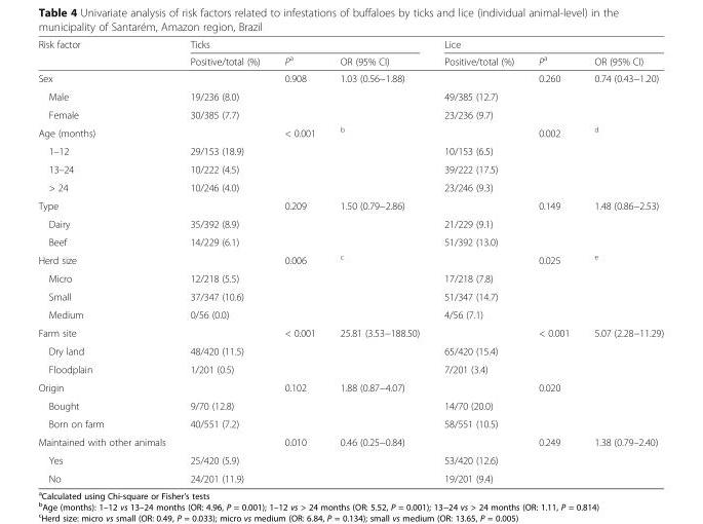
<table><thead><tr><td rowspan="2">Risk factor</td><td colspan="3">Ticks</td><td colspan="3">Lice</td></tr><tr><td>Positive/total (%)</td><td>P<sup>a</sup></td><td>OR (95% CI)</td><td>Positive/total (%)</td><td>P<sup>a</sup></td><td>OR (95% CI)</td></tr></thead><tbody><tr><td>Sex</td><td></td><td>0.908</td><td>1.03 (0.56−1.88)</td><td></td><td>0.260</td><td>0.74 (0.43−1.20)</td></tr><tr><td>Male</td><td>19/236 (8.0)</td><td></td><td></td><td>49/385 (12.7)</td><td></td><td></td></tr><tr><td>Female</td><td>30/385 (7.7)</td><td></td><td></td><td>23/236 (9.7)</td><td></td><td></td></tr><tr><td>Age (months)</td><td></td><td>&lt; 0.001</td><td><sup>b</sup></td><td></td><td>0.002</td><td><sup>d</sup></td></tr><tr><td>1–12</td><td>29/153 (18.9)</td><td></td><td></td><td>10/153 (6.5)</td><td></td><td></td></tr><tr><td>13–24</td><td>10/222 (4.5)</td><td></td><td></td><td>39/222 (17.5)</td><td></td><td></td></tr><tr><td>&gt; 24</td><td>10/246 (4.0)</td><td></td><td></td><td>23/246 (9.3)</td><td></td><td></td></tr><tr><td>Type</td><td></td><td>0.209</td><td>1.50 (0.79−2.86)</td><td></td><td>0.149</td><td>1.48 (0.86−2.53)</td></tr><tr><td>Dairy</td><td>35/392 (8.9)</td><td></td><td></td><td>21/229 (9.1)</td><td></td><td></td></tr><tr><td>Beef</td><td>14/229 (6.1)</td><td></td><td></td><td>51/392 (13.0)</td><td></td><td></td></tr><tr><td>Herd size</td><td></td><td>0.006</td><td><sup>c</sup></td><td></td><td>0.025</td><td><sup>e</sup></td></tr><tr><td>Micro</td><td>12/218 (5.5)</td><td></td><td></td><td>17/218 (7.8)</td><td></td><td></td></tr><tr><td>Small</td><td>37/347 (10.6)</td><td></td><td></td><td>51/347 (14.7)</td><td></td><td></td></tr><tr><td>Medium</td><td>0/56 (0.0)</td><td></td><td></td><td>4/56 (7.1)</td><td></td><td></td></tr><tr><td>Farm site</td><td></td><td>&lt; 0.001</td><td>25.81 (3.53−188.50)</td><td></td><td>&lt; 0.001</td><td>5.07 (2.28−11.29)</td></tr><tr><td>Dry land</td><td>48/420 (11.5)</td><td></td><td></td><td>65/420 (15.4)</td><td></td><td></td></tr><tr><td>Floodplain</td><td>1/201 (0.5)</td><td></td><td></td><td>7/201 (3.4)</td><td></td><td></td></tr><tr><td>Origin</td><td></td><td>0.102</td><td>1.88 (0.87−4.07)</td><td></td><td>0.020</td><td></td></tr><tr><td>Bought</td><td>9/70 (12.8)</td><td></td><td></td><td>14/70 (20.0)</td><td></td><td></td></tr><tr><td>Born on farm</td><td>40/551 (7.2)</td><td></td><td></td><td>58/551 (10.5)</td><td></td><td></td></tr><tr><td>Maintained with other animals</td><td></td><td>0.010</td><td>0.46 (0.25−0.84)</td><td></td><td>0.249</td><td>1.38 (0.79–2.40)</td></tr><tr><td>Yes</td><td>25/420 (5.9)</td><td></td><td></td><td>53/420 (12.6)</td><td></td><td></td></tr><tr><td>No</td><td>24/201 (11.9)</td><td></td><td></td><td>19/201 (9.4)</td><td></td><td></td></tr></tbody></table>